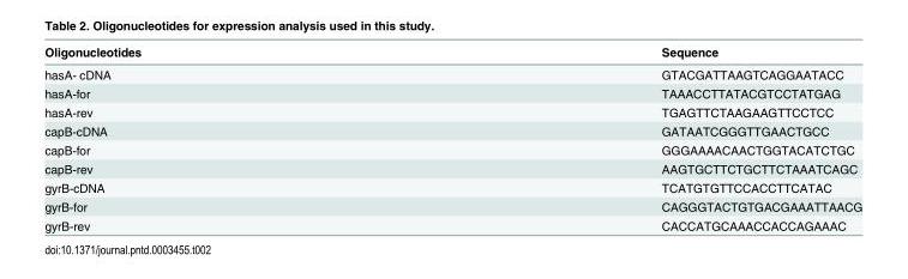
<table><thead><tr><td>Oligonucleotides</td><td>Sequence</td></tr></thead><tbody><tr><td>hasA- cDNA</td><td>GTACGATTAAGTCAGGAATACC</td></tr><tr><td>hasA-for</td><td>TAAACCTTATACGTCCTATGAG</td></tr><tr><td>hasA-rev</td><td>TGAGTTCTAAGAAGTTCCTCC</td></tr><tr><td>capB-cDNA</td><td>GATAATCGGGTTGAACTGCC</td></tr><tr><td>capB-for</td><td>GGGAAAACAACTGGTACATCTGC</td></tr><tr><td>capB-rev</td><td>AAGTGCTTCTGCTTCTAAATCAGC</td></tr><tr><td>gyrB-cDNA</td><td>TCATGTGTTCCACCTTCATAC</td></tr><tr><td>gyrB-for</td><td>CAGGGTACTGTGACGAAATTAACG</td></tr><tr><td>gyrB-rev</td><td>CACCATGCAAACCACCAGAAAC</td></tr></tbody></table>